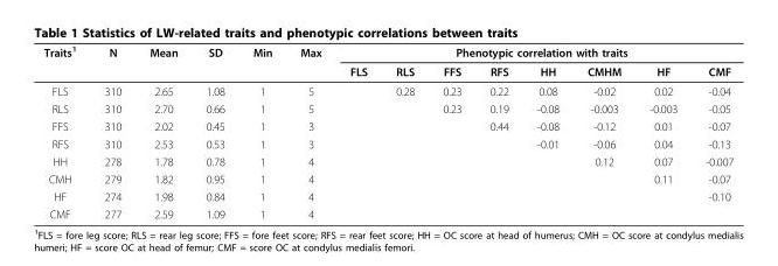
<table><thead><tr><td rowspan="2">Traits<sup>1</sup></td><td rowspan="2">N</td><td rowspan="2">Mean</td><td rowspan="2">SD</td><td rowspan="2">Min</td><td rowspan="2">Max</td><td colspan="8">Phenotypic correlation with traits</td></tr><tr><td>FLS</td><td>RLS</td><td>FFS</td><td>RFS</td><td>HH</td><td>CMHM</td><td>HF</td><td>CMF</td></tr></thead><tbody><tr><td>FLS</td><td>310</td><td>2.65</td><td>1.08</td><td>1</td><td>5</td><td></td><td>0.28</td><td>0.23</td><td>0.22</td><td>0.08</td><td>-0.02</td><td>0.02</td><td>-0.04</td></tr><tr><td>RLS</td><td>310</td><td>2.70</td><td>0.66</td><td>1</td><td>5</td><td></td><td></td><td>0.23</td><td>0.19</td><td>-0.08</td><td>-0.003</td><td>-0.003</td><td>-0.05</td></tr><tr><td>FFS</td><td>310</td><td>2.02</td><td>0.45</td><td>1</td><td>3</td><td></td><td></td><td></td><td>0.44</td><td>-0.08</td><td>-0.12</td><td>0.01</td><td>-0.07</td></tr><tr><td>RFS</td><td>310</td><td>2.53</td><td>0.53</td><td>1</td><td>3</td><td></td><td></td><td></td><td></td><td>-0.01</td><td>-0.06</td><td>0.04</td><td>-0.13</td></tr><tr><td>HH</td><td>278</td><td>1.78</td><td>0.78</td><td>1</td><td>4</td><td></td><td></td><td></td><td></td><td></td><td>0.12</td><td>0.07</td><td>-0.007</td></tr><tr><td>CMH</td><td>279</td><td>1.82</td><td>0.95</td><td>1</td><td>4</td><td></td><td></td><td></td><td></td><td></td><td></td><td>0.11</td><td>-0.07</td></tr><tr><td>HF</td><td>274</td><td>1.98</td><td>0.84</td><td>1</td><td>4</td><td></td><td></td><td></td><td></td><td></td><td></td><td></td><td>-0.10</td></tr><tr><td>CMF</td><td>277</td><td>2.59</td><td>1.09</td><td>1</td><td>4</td><td></td><td></td><td></td><td></td><td></td><td></td><td></td><td></td></tr></tbody></table>